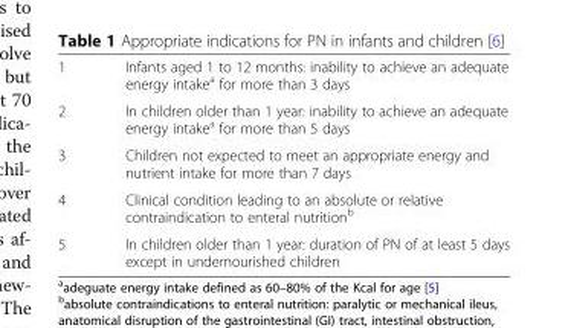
<table><tbody><tr><td>1</td><td>Infants aged 1 to 12 months: inability to achieve an adequate energy intake<sup>a</sup> for more than 3 days</td></tr><tr><td>2</td><td>In children older than 1 year: inability to achieve an adequate energy intake<sup>a</sup> for more than 5 days</td></tr><tr><td>3</td><td>Children not expected to meet an appropriate energy and nutrient intake for more than 7 days</td></tr><tr><td>4</td><td>Clinical condition leading to an absolute or relative contraindication to enteral nutrition<sup>b</sup></td></tr><tr><td>5</td><td>In children older than 1 year: duration of PN of at least 5 days except in undernourished children</td></tr></tbody></table>